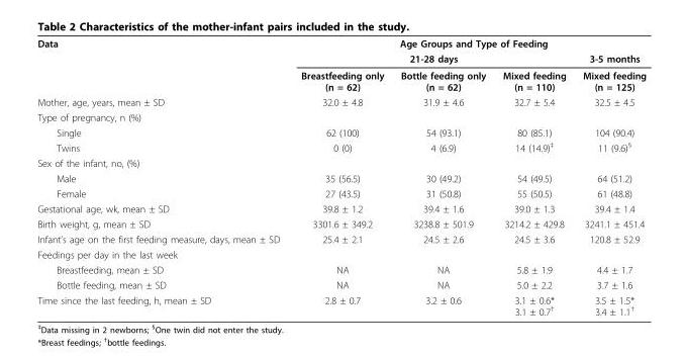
<table><tbody><tr><td rowspan="3">Data</td><td colspan="4">Age Groups and Type of Feeding</td></tr><tr><td colspan="3">21-28 days</td><td>3-5 months</td></tr><tr><td>Breastfeeding only (n = 62)</td><td>Bottle feeding only (n = 62)</td><td>Mixed feeding (n = 110)</td><td>Mixed feeding (n = 125)</td></tr><tr><td>Mother, age, years, mean ± SD</td><td>32.0 ± 4.8</td><td>31.9 ± 4.6</td><td>32.7 ± 5.4</td><td>32.5 ± 4.5</td></tr><tr><td colspan="5">Type of pregnancy, n (%)</td></tr><tr><td>Single</td><td>62 (100)</td><td>54 (93.1)</td><td>80 (85.1)</td><td>104 (90.4)</td></tr><tr><td>Twins</td><td>0 (0)</td><td>4 (6.9)</td><td>14 (14.9)<sup>‡</sup></td><td>11 (9.6)<sup>§</sup></td></tr><tr><td colspan="5">Sex of the infant, no, (%)</td></tr><tr><td>Male</td><td>35 (56.5)</td><td>30 (49.2)</td><td>54 (49.5)</td><td>64 (51.2)</td></tr><tr><td>Female</td><td>27 (43.5)</td><td>31 (50.8)</td><td>55 (50.5)</td><td>61 (48.8)</td></tr><tr><td>Gestational age, wk, mean ± SD</td><td>39.8 ± 1.2</td><td>39.4 ± 1.6</td><td>39.0 ± 1.3</td><td>39.4 ± 1.4</td></tr><tr><td>Birth weight, g, mean ± SD</td><td>3301.6 ± 349.2</td><td>3238.8 ± 501.9</td><td>3214.2 ± 429.8</td><td>3241.1 ± 451.4</td></tr><tr><td>Infant’s age on the first feeding measure, days, mean ± SD</td><td>25.4 ± 2.1</td><td>24.5 ± 2.6</td><td>24.5 ± 3.6</td><td>120.8 ± 52.9</td></tr><tr><td colspan="5">Feedings per day in the last week</td></tr><tr><td>Breastfeeding, mean ± SD</td><td>NA</td><td>NA</td><td>5.8 ± 1.9</td><td>4.4 ± 1.7</td></tr><tr><td>Bottle feeding, mean ± SD</td><td>NA</td><td>NA</td><td>5.0 ± 2.2</td><td>3.7 ± 1.6</td></tr><tr><td>Time since the last feeding, h, mean ± SD</td><td>2.8 ± 0.7</td><td>3.2 ± 0.6</td><td>3.1 ± 0.6* 3.1 ± 0.7<sup>†</sup></td><td>3.5 ± 1.5* 3.4 ± 1.1<sup>†</sup></td></tr></tbody></table>